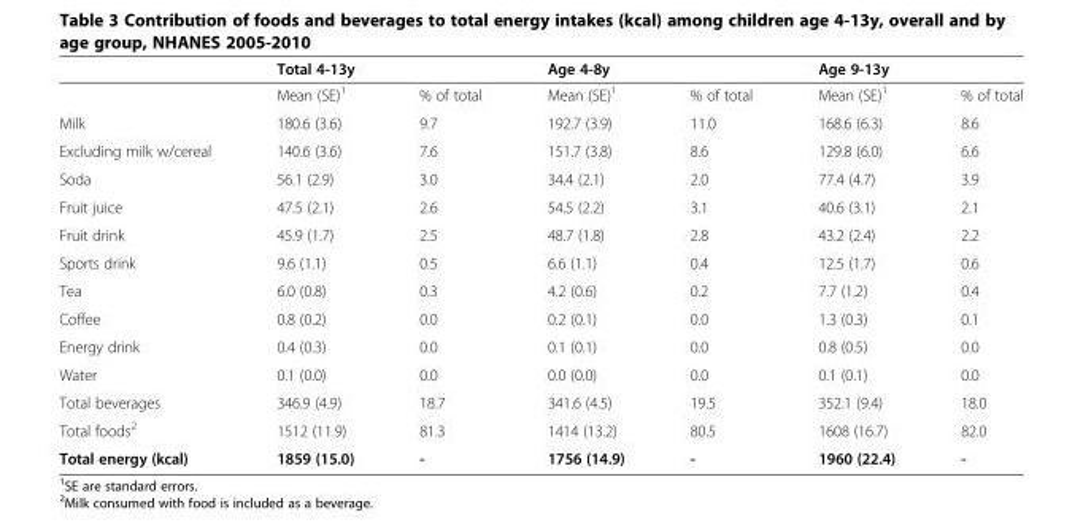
<table><thead><tr><td rowspan="2"></td><td colspan="2">Total 4-13y</td><td colspan="2">Age 4-8y</td><td colspan="2">Age 9-13y</td></tr><tr><td>Mean (SE)<sup>1</sup></td><td>% of total</td><td>Mean (SE)<sup>1</sup></td><td>% of total</td><td>Mean (SE)<sup>1</sup></td><td>% of total</td></tr></thead><tbody><tr><td>Milk</td><td>180.6 (3.6)</td><td>9.7</td><td>192.7 (3.9)</td><td>11.0</td><td>168.6 (6.3)</td><td>8.6</td></tr><tr><td>Excluding milk w/cereal</td><td>140.6 (3.6)</td><td>7.6</td><td>151.7 (3.8)</td><td>8.6</td><td>129.8 (6.0)</td><td>6.6</td></tr><tr><td>Soda</td><td>56.1 (2.9)</td><td>3.0</td><td>34.4 (2.1)</td><td>2.0</td><td>77.4 (4.7)</td><td>3.9</td></tr><tr><td>Fruit juice</td><td>47.5 (2.1)</td><td>2.6</td><td>54.5 (2.2)</td><td>3.1</td><td>40.6 (3.1)</td><td>2.1</td></tr><tr><td>Fruit drink</td><td>45.9 (1.7)</td><td>2.5</td><td>48.7 (1.8)</td><td>2.8</td><td>43.2 (2.4)</td><td>2.2</td></tr><tr><td>Sports drink</td><td>9.6 (1.1)</td><td>0.5</td><td>6.6 (1.1)</td><td>0.4</td><td>12.5 (1.7)</td><td>0.6</td></tr><tr><td>Tea</td><td>6.0 (0.8)</td><td>0.3</td><td>4.2 (0.6)</td><td>0.2</td><td>7.7 (1.2)</td><td>0.4</td></tr><tr><td>Coffee</td><td>0.8 (0.2)</td><td>0.0</td><td>0.2 (0.1)</td><td>0.0</td><td>1.3 (0.3)</td><td>0.1</td></tr><tr><td>Energy drink</td><td>0.4 (0.3)</td><td>0.0</td><td>0.1 (0.1)</td><td>0.0</td><td>0.8 (0.5)</td><td>0.0</td></tr><tr><td>Water</td><td>0.1 (0.0)</td><td>0.0</td><td>0.0 (0.0)</td><td>0.0</td><td>0.1 (0.1)</td><td>0.0</td></tr><tr><td>Total beverages</td><td>346.9 (4.9)</td><td>18.7</td><td>341.6 (4.5)</td><td>19.5</td><td>352.1 (9.4)</td><td>18.0</td></tr><tr><td>Total foods<sup>2</sup></td><td>1512 (11.9)</td><td>81.3</td><td>1414 (13.2)</td><td>80.5</td><td>1608 (16.7)</td><td>82.0</td></tr><tr><td>Total energy (kcal)</td><td>1859 (15.0)</td><td>-</td><td>1756 (14.9)</td><td>-</td><td>1960 (22.4)</td><td>-</td></tr></tbody></table>